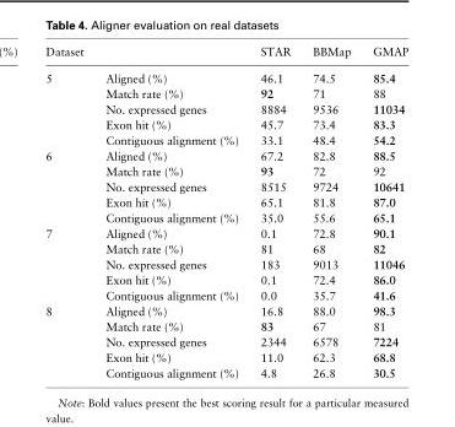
<table><thead><tr><td>Dataset</td><td></td><td>STAR</td><td>BBMap</td><td>GMAP</td></tr></thead><tbody><tr><td rowspan="5">5</td><td>Aligned (%)</td><td>46.1</td><td>74.5</td><td>85.4</td></tr><tr><td>Match rate (%)</td><td>92</td><td>71</td><td>88</td></tr><tr><td>No. expressed genes</td><td>8884</td><td>9536</td><td>11034</td></tr><tr><td>Exon hit (%)</td><td>45.7</td><td>73.4</td><td>83.3</td></tr><tr><td>Contiguous alignment (%)</td><td>33.1</td><td>48.4</td><td>54.2</td></tr><tr><td rowspan="5">6</td><td>Aligned (%)</td><td>67.2</td><td>82.8</td><td>88.5</td></tr><tr><td>Match rate (%)</td><td>93</td><td>72</td><td>92</td></tr><tr><td>No. expressed genes</td><td>8515</td><td>9724</td><td>10641</td></tr><tr><td>Exon hit (%)</td><td>65.1</td><td>81.8</td><td>87.0</td></tr><tr><td>Contiguous alignment (%)</td><td>35.0</td><td>55.6</td><td>65.1</td></tr><tr><td rowspan="5">7</td><td>Aligned (%)</td><td>0.1</td><td>72.8</td><td>90.1</td></tr><tr><td>Match rate (%)</td><td>81</td><td>68</td><td>82</td></tr><tr><td>No. expressed genes</td><td>183</td><td>9013</td><td>11046</td></tr><tr><td>Exon hit (%)</td><td>0.1</td><td>72.4</td><td>86.0</td></tr><tr><td>Contiguous alignment (%)</td><td>0.0</td><td>35.7</td><td>41.6</td></tr><tr><td rowspan="5">8</td><td>Aligned (%)</td><td>16.8</td><td>88.0</td><td>98.3</td></tr><tr><td>Match rate (%)</td><td>83</td><td>67</td><td>81</td></tr><tr><td>No. expressed genes</td><td>2344</td><td>6578</td><td>7224</td></tr><tr><td>Exon hit (%)</td><td>11.0</td><td>62.3</td><td>68.8</td></tr><tr><td>Contiguous alignment (%)</td><td>4.8</td><td>26.8</td><td>30.5</td></tr></tbody></table>